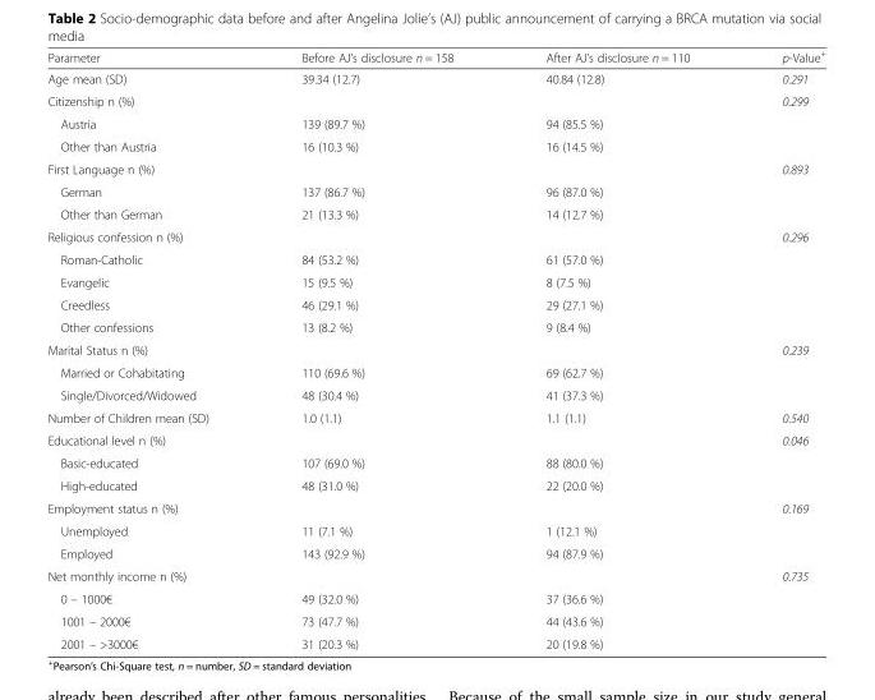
<table><thead><tr><td>Parameter</td><td>Before AJ’s disclosure n = 158</td><td>After AJ’s disclosure n = 110</td><td>p-Value<sup>+</sup></td></tr></thead><tbody><tr><td>Age mean (SD)</td><td>39.34 (12.7)</td><td>40.84 (12.8)</td><td>0.291</td></tr><tr><td>Citizenship n (%)</td><td></td><td></td><td>0.299</td></tr><tr><td>Austria</td><td>139 (89.7 %)</td><td>94 (85.5 %)</td><td></td></tr><tr><td>Other than Austria</td><td>16 (10.3 %)</td><td>16 (14.5 %)</td><td></td></tr><tr><td>First Language n (%)</td><td></td><td></td><td>0.893</td></tr><tr><td>German</td><td>137 (86.7 %)</td><td>96 (87.0 %)</td><td></td></tr><tr><td>Other than German</td><td>21 (13.3 %)</td><td>14 (12.7 %)</td><td></td></tr><tr><td>Religious confession n (%)</td><td></td><td></td><td>0.296</td></tr><tr><td>Roman-Catholic</td><td>84 (53.2 %)</td><td>61 (57.0 %)</td><td></td></tr><tr><td>Evangelic</td><td>15 (9.5 %)</td><td>8 (7.5 %)</td><td></td></tr><tr><td>Creedless</td><td>46 (29.1 %)</td><td>29 (27.1 %)</td><td></td></tr><tr><td>Other confessions</td><td>13 (8.2 %)</td><td>9 (8.4 %)</td><td></td></tr><tr><td>Marital Status n (%)</td><td></td><td></td><td>0.239</td></tr><tr><td>Married or Cohabitating</td><td>110 (69.6 %)</td><td>69 (62.7 %)</td><td></td></tr><tr><td>Single/Divorced/Widowed</td><td>48 (30.4 %)</td><td>41 (37.3 %)</td><td></td></tr><tr><td>Number of Children mean (SD)</td><td>1.0 (1.1)</td><td>1.1 (1.1)</td><td>0.540</td></tr><tr><td>Educational level n (%)</td><td></td><td></td><td>0.046</td></tr><tr><td>Basic-educated</td><td>107 (69.0 %)</td><td>88 (80.0 %)</td><td></td></tr><tr><td>High-educated</td><td>48 (31.0 %)</td><td>22 (20.0 %)</td><td></td></tr><tr><td>Employment status n (%)</td><td></td><td></td><td>0.169</td></tr><tr><td>Unemployed</td><td>11 (7.1 %)</td><td>1 (12.1 %)</td><td></td></tr><tr><td>Employed</td><td>143 (92.9 %)</td><td>94 (87.9 %)</td><td></td></tr><tr><td>Net monthly income n (%)</td><td></td><td></td><td>0.735</td></tr><tr><td>0 – 1000€</td><td>49 (32.0 %)</td><td>37 (36.6 %)</td><td></td></tr><tr><td>1001 – 2000€</td><td>73 (47.7 %)</td><td>44 (43.6 %)</td><td></td></tr><tr><td>2001 – &gt;3000€</td><td>31 (20.3 %)</td><td>20 (19.8 %)</td><td></td></tr></tbody></table>